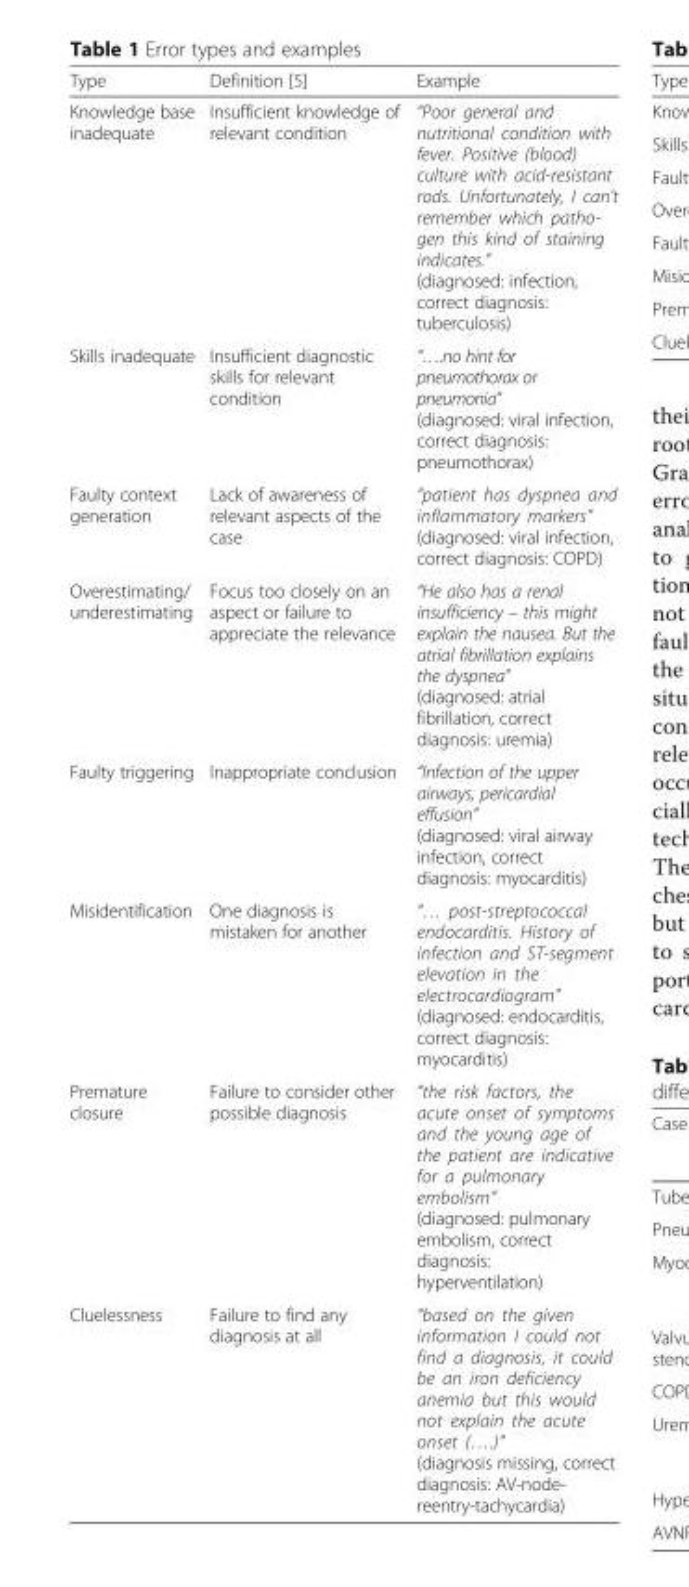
<table><thead><tr><td>Type</td><td>Definition [5]</td><td>Example</td></tr></thead><tbody><tr><td>Knowledge base inadequate</td><td>Insufficient knowledge of relevant condition</td><td>“Poor general and nutritional condition with fever. Positive (blood) culture with acid-resistant rods. Unfortunately, I can’t remember which patho- gen this kind of staining indicates.” (diagnosed: infection, correct diagnosis: tuberculosis)</td></tr><tr><td>Skills inadequate</td><td>Insufficient diagnostic skills for relevant condition</td><td>“….no hint for pneumothorax or pneumonia” (diagnosed: viral infection, correct diagnosis: pneumothorax)</td></tr><tr><td>Faulty context generation</td><td>Lack of awareness of relevant aspects of the case</td><td>“patient has dyspnea and inflammatory markers” (diagnosed: viral infection, correct diagnosis: COPD)</td></tr><tr><td>Overestimating/ underestimating</td><td>Focus too closely on an aspect or failure to appreciate the relevance</td><td>“He also has a renal insufficiency – this might explain the nausea. But the atrial fibrillation explains the dyspnea” (diagnosed: atrial fibrillation, correct diagnosis: uremia)</td></tr><tr><td>Faulty triggering</td><td>Inappropriate conclusion</td><td>“Infection of the upper airways, pericardial effusion” (diagnosed: viral airway infection, correct diagnosis: myocarditis)</td></tr><tr><td>Misidentification</td><td>One diagnosis is mistaken for another</td><td>“… post-streptococcal endocarditis. History of infection and ST-segment elevation in the electrocardiogram” (diagnosed: endocarditis, correct diagnosis: myocarditis)</td></tr><tr><td>Premature closure</td><td>Failure to consider other possible diagnosis</td><td>“the risk factors, the acute onset of symptoms and the young age of the patient are indicative for a pulmonary embolism” (diagnosed: pulmonary embolism, correct diagnosis: hyperventilation)</td></tr><tr><td>Cluelessness</td><td>Failure to find any diagnosis at all</td><td>“based on the given information I could not find a diagnosis, it could be an iron deficiency anemia but this would not explain the acute onset (….)” (diagnosis missing, correct diagnosis: AV-node- reentry-tachycardia)</td></tr></tbody></table>